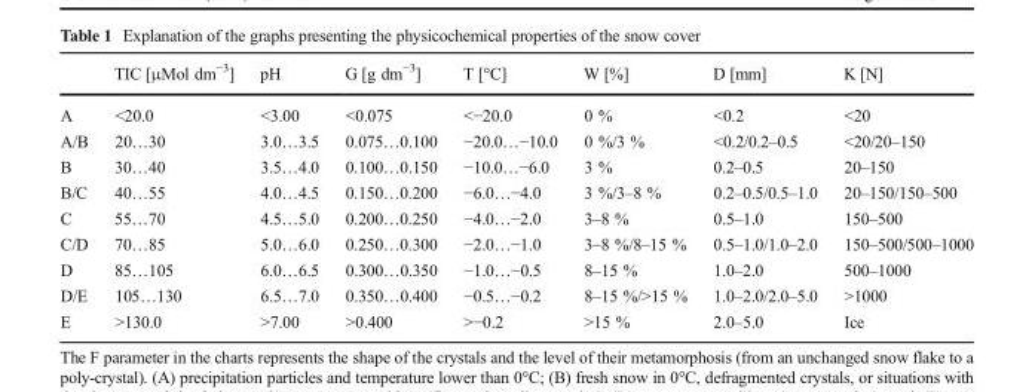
<table><thead><tr><td></td><td>TIC [μMol dm<sup>−3</sup>]</td><td>pH</td><td>G [g dm<sup>−3</sup>]</td><td>T [°C]</td><td>W [%]</td><td>D [mm]</td><td>K [N]</td></tr></thead><tbody><tr><td>A</td><td>&lt;20.0</td><td>&lt;3.00</td><td>&lt;0.075</td><td>&lt;−20.0</td><td>0 %</td><td>&lt;0.2</td><td>&lt;20</td></tr><tr><td>A/B</td><td>20…30</td><td>3.0…3.5</td><td>0.075…0.100</td><td>−20.0…−10.0</td><td>0 %/3 %</td><td>&lt;0.2/0.2–0.5</td><td>&lt;20/20–150</td></tr><tr><td>B</td><td>30…40</td><td>3.5…4.0</td><td>0.100…0.150</td><td>−10.0…−6.0</td><td>3 %</td><td>0.2–0.5</td><td>20–150</td></tr><tr><td>B/C</td><td>40…55</td><td>4.0…4.5</td><td>0.150…0.200</td><td>−6.0…−4.0</td><td>3 %/3–8 %</td><td>0.2–0.5/0.5–1.0</td><td>20–150/150–500</td></tr><tr><td>C</td><td>55…70</td><td>4.5…5.0</td><td>0.200…0.250</td><td>−4.0…−2.0</td><td>3–8 %</td><td>0.5–1.0</td><td>150–500</td></tr><tr><td>C/D</td><td>70…85</td><td>5.0…6.0</td><td>0.250…0.300</td><td>−2.0…−1.0</td><td>3–8 %/8–15 %</td><td>0.5–1.0/1.0–2.0</td><td>150–500/500–1000</td></tr><tr><td>D</td><td>85…105</td><td>6.0…6.5</td><td>0.300…0.350</td><td>−1.0…−0.5</td><td>8–15 %</td><td>1.0–2.0</td><td>500–1000</td></tr><tr><td>D/E</td><td>105…130</td><td>6.5…7.0</td><td>0.350…0.400</td><td>−0.5…−0.2</td><td>8–15 %/&gt;15 %</td><td>1.0–2.0/2.0–5.0</td><td>&gt;1000</td></tr><tr><td>E</td><td>&gt;130.0</td><td>&gt;7.00</td><td>&gt;0.400</td><td>&gt;−0.2</td><td>&gt;15 %</td><td>2.0–5.0</td><td>Ice</td></tr></tbody></table>